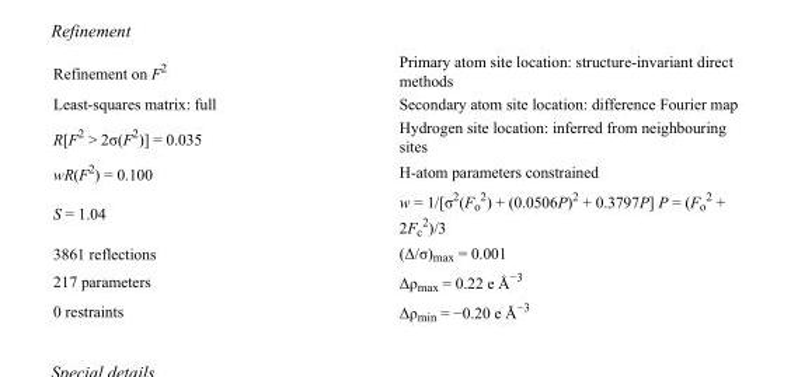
<table><tbody><tr><td>Refinement on F<sup>2</sup></td><td>Primary atom site location: structure-invariant direct methods</td></tr><tr><td>Least-squares matrix: full</td><td>Secondary atom site location: difference Fourier map</td></tr><tr><td>R[F<sup>2</sup> &gt; 2σ(F<sup>2</sup>)] = 0.035</td><td>Hydrogen site location: inferred from neighbouring sites</td></tr><tr><td>wR(F<sup>2</sup>) = 0.100</td><td>H-atom parameters constrained</td></tr><tr><td>S = 1.04</td><td>w = 1/[σ<sup>2</sup>(F<sub>o</sub> <sup>2</sup>) + (0.0506P)<sup>2</sup> + 0.3797P] P = (F<sub>o</sub> <sup>2</sup> + 2F<sub>c</sub> <sup>2</sup>)/3</td></tr><tr><td>3861 reflections</td><td>(Δ/σ)<sub>max</sub> = 0.001</td></tr><tr><td>217 parameters</td><td>Δρ<sub>max</sub> = 0.22 e Å<sup>−3</sup></td></tr><tr><td>0 restraints</td><td>Δρ<sub>min</sub> = −0.20 e Å<sup>−3</sup></td></tr></tbody></table>